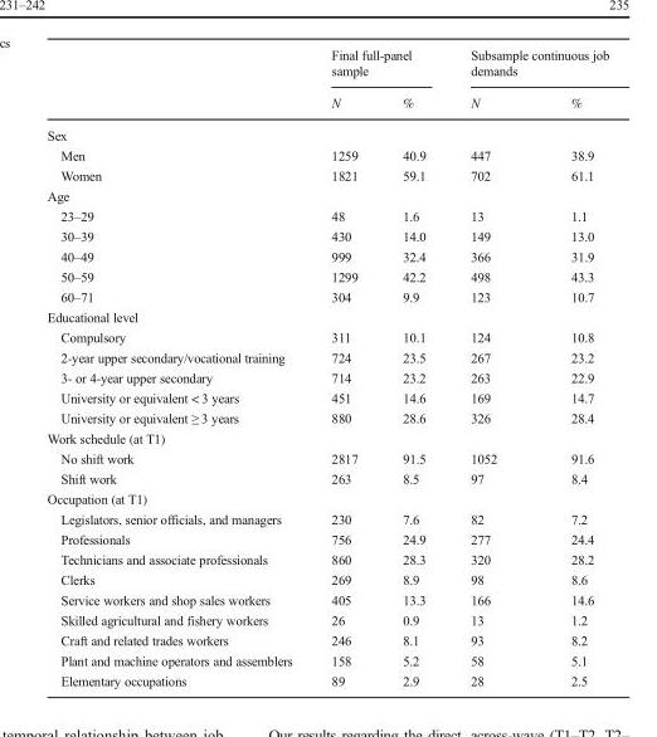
<table><thead><tr><td rowspan="2"></td><td colspan="2">Final full-panel sample</td><td colspan="2">Subsample continuous job demands</td></tr><tr><td>N</td><td>%</td><td>N</td><td>%</td></tr></thead><tbody><tr><td colspan="5">Sex</td></tr><tr><td>Men</td><td>1259</td><td>40.9</td><td>447</td><td>38.9</td></tr><tr><td>Women</td><td>1821</td><td>59.1</td><td>702</td><td>61.1</td></tr><tr><td colspan="5">Age</td></tr><tr><td>23–29</td><td>48</td><td>1.6</td><td>13</td><td>1.1</td></tr><tr><td>30–39</td><td>430</td><td>14.0</td><td>149</td><td>13.0</td></tr><tr><td>40–49</td><td>999</td><td>32.4</td><td>366</td><td>31.9</td></tr><tr><td>50–59</td><td>1299</td><td>42.2</td><td>498</td><td>43.3</td></tr><tr><td>60–71</td><td>304</td><td>9.9</td><td>123</td><td>10.7</td></tr><tr><td colspan="5">Educational level</td></tr><tr><td>Compulsory</td><td>311</td><td>10.1</td><td>124</td><td>10.8</td></tr><tr><td>2-year upper secondary/vocational training</td><td>724</td><td>23.5</td><td>267</td><td>23.2</td></tr><tr><td>3- or 4-year upper secondary</td><td>714</td><td>23.2</td><td>263</td><td>22.9</td></tr><tr><td>University or equivalent &lt; 3 years</td><td>451</td><td>14.6</td><td>169</td><td>14.7</td></tr><tr><td>University or equivalent ≥ 3 years</td><td>880</td><td>28.6</td><td>326</td><td>28.4</td></tr><tr><td colspan="5">Work schedule (at T1)</td></tr><tr><td>No shift work</td><td>2817</td><td>91.5</td><td>1052</td><td>91.6</td></tr><tr><td>Shift work</td><td>263</td><td>8.5</td><td>97</td><td>8.4</td></tr><tr><td colspan="5">Occupation (at T1)</td></tr><tr><td>Legislators, senior officials, and managers</td><td>230</td><td>7.6</td><td>82</td><td>7.2</td></tr><tr><td>Professionals</td><td>756</td><td>24.9</td><td>277</td><td>24.4</td></tr><tr><td>Technicians and associate professionals</td><td>860</td><td>28.3</td><td>320</td><td>28.2</td></tr><tr><td>Clerks</td><td>269</td><td>8.9</td><td>98</td><td>8.6</td></tr><tr><td>Service workers and shop sales workers</td><td>405</td><td>13.3</td><td>166</td><td>14.6</td></tr><tr><td>Skilled agricultural and fishery workers</td><td>26</td><td>0.9</td><td>13</td><td>1.2</td></tr><tr><td>Craft and related trades workers</td><td>246</td><td>8.1</td><td>93</td><td>8.2</td></tr><tr><td>Plant and machine operators and assemblers</td><td>158</td><td>5.2</td><td>58</td><td>5.1</td></tr><tr><td>Elementary occupations</td><td>89</td><td>2.9</td><td>28</td><td>2.5</td></tr></tbody></table>